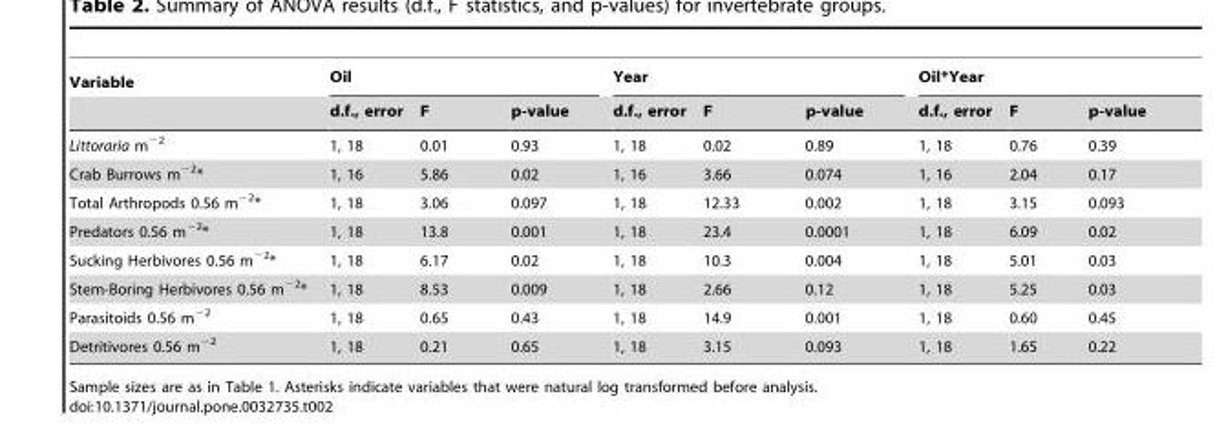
<table><thead><tr><td rowspan="2">Variable</td><td colspan="3">Oil</td><td colspan="3">Year</td><td colspan="3">Oil*Year</td></tr><tr><td>d.f., error</td><td>F</td><td>p-value</td><td>d.f., error</td><td>F</td><td>p-value</td><td>d.f., error</td><td>F</td><td>p-value</td></tr></thead><tbody><tr><td>Littoraria m<sup>−2</sup></td><td>1, 18</td><td>0.01</td><td>0.93</td><td>1, 18</td><td>0.02</td><td>0.89</td><td>1, 18</td><td>0.76</td><td>0.39</td></tr><tr><td>Crab Burrows m<sup>−2</sup>*</td><td>1, 16</td><td>5.86</td><td>0.02</td><td>1, 16</td><td>3.66</td><td>0.074</td><td>1, 16</td><td>2.04</td><td>0.17</td></tr><tr><td>Total Arthropods 0.56 m<sup>−2</sup>*</td><td>1, 18</td><td>3.06</td><td>0.097</td><td>1, 18</td><td>12.33</td><td>0.002</td><td>1, 18</td><td>3.15</td><td>0.093</td></tr><tr><td>Predators 0.56 m<sup>−2</sup>*</td><td>1, 18</td><td>13.8</td><td>0.001</td><td>1, 18</td><td>23.4</td><td>0.0001</td><td>1, 18</td><td>6.09</td><td>0.02</td></tr><tr><td>Sucking Herbivores 0.56 m<sup>−2</sup>*</td><td>1, 18</td><td>6.17</td><td>0.02</td><td>1, 18</td><td>10.3</td><td>0.004</td><td>1, 18</td><td>5.01</td><td>0.03</td></tr><tr><td>Stem-Boring Herbivores 0.56 m<sup>−2</sup>*</td><td>1, 18</td><td>8.53</td><td>0.009</td><td>1, 18</td><td>2.66</td><td>0.12</td><td>1, 18</td><td>5.25</td><td>0.03</td></tr><tr><td>Parasitoids 0.56 m<sup>−2</sup></td><td>1, 18</td><td>0.65</td><td>0.43</td><td>1, 18</td><td>14.9</td><td>0.001</td><td>1, 18</td><td>0.60</td><td>0.45</td></tr><tr><td>Detritivores 0.56 m<sup>−2</sup></td><td>1, 18</td><td>0.21</td><td>0.65</td><td>1, 18</td><td>3.15</td><td>0.093</td><td>1, 18</td><td>1.65</td><td>0.22</td></tr></tbody></table>